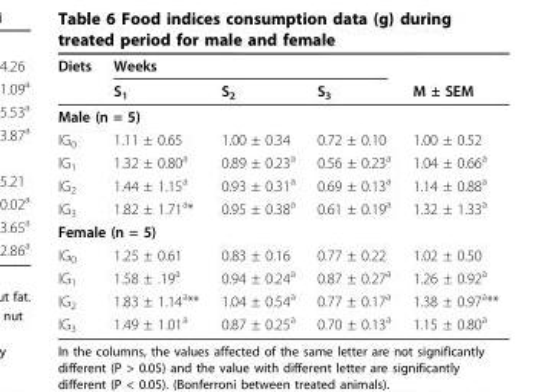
<table><thead><tr><td rowspan="2">Diets</td><td colspan="3">Weeks</td><td rowspan="2">M ± SEM</td></tr><tr><td>S<sub>1</sub></td><td>S<sub>2</sub></td><td>S<sub>3</sub></td></tr></thead><tbody><tr><td colspan="5">Male (n = 5)</td></tr><tr><td>IG<sub>0</sub></td><td>1.11 ± 0.65</td><td>1.00 ± 0.34</td><td>0.72 ± 0.10</td><td>1.00 ± 0.52</td></tr><tr><td>IG<sub>1</sub></td><td>1.32 ± 0.80<sup>a</sup></td><td>0.89 ± 0.23<sup>a</sup></td><td>0.56 ± 0.23<sup>a</sup></td><td>1.04 ± 0.66<sup>a</sup></td></tr><tr><td>IG<sub>2</sub></td><td>1.44 ± 1.15<sup>a</sup></td><td>0.93 ± 0.31<sup>a</sup></td><td>0.69 ± 0.13<sup>a</sup></td><td>1.14 ± 0.88<sup>a</sup></td></tr><tr><td>IG<sub>3</sub></td><td>1.82 ± 1.71<sup>a</sup>*</td><td>0.95 ± 0.38<sup>a</sup></td><td>0.61 ± 0.19<sup>a</sup></td><td>1.32 ± 1.33<sup>a</sup></td></tr><tr><td colspan="5">Female (n = 5)</td></tr><tr><td>IG<sub>0</sub></td><td>1.25 ± 0.61</td><td>0.83 ± 0.16</td><td>0.77 ± 0.22</td><td>1.02 ± 0.50</td></tr><tr><td>IG<sub>1</sub></td><td>1.58 ± .19<sup>a</sup></td><td>0.94 ± 0.24<sup>a</sup></td><td>0.87 ± 0.27<sup>a</sup></td><td>1.26 ± 0.92<sup>a</sup></td></tr><tr><td>IG<sub>2</sub></td><td>1.83 ± 1.14<sup>a</sup>**</td><td>1.04 ± 0.54<sup>a</sup></td><td>0.77 ± 0.17<sup>a</sup></td><td>1.38 ± 0.97<sup>a</sup>**</td></tr><tr><td>IG<sub>3</sub></td><td>1.49 ± 1.01<sup>a</sup></td><td>0.87 ± 0.25<sup>a</sup></td><td>0.70 ± 0.13<sup>a</sup></td><td>1.15 ± 0.80<sup>a</sup></td></tr></tbody></table>